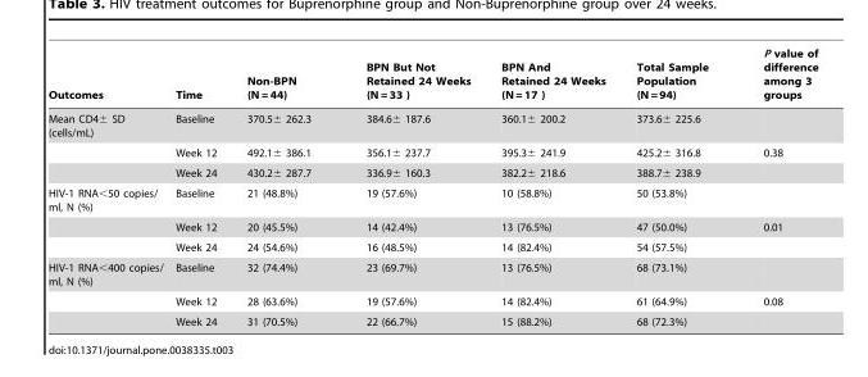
<table><thead><tr><td>Outcomes</td><td>Time</td><td>Non-BPN (N = 44)</td><td>BPN But Not Retained 24 Weeks (N = 33 )</td><td>BPN And Retained 24 Weeks (N = 17 )</td><td>Total Sample Population (N = 94)</td><td>P value of difference among 3 groups</td></tr></thead><tbody><tr><td rowspan="3">Mean CD4± SD (cells/mL)</td><td>Baseline</td><td>370.5± 262.3</td><td>384.6± 187.6</td><td>360.1± 200.2</td><td>373.6± 225.6</td><td></td></tr><tr><td>Week 12</td><td>492.1± 386.1</td><td>356.1± 237.7</td><td>395.3± 241.9</td><td>425.2± 316.8</td><td>0.38</td></tr><tr><td>Week 24</td><td>430.2± 287.7</td><td>336.9± 160.3</td><td>382.2± 218.6</td><td>388.7± 238.9</td><td></td></tr><tr><td rowspan="3">HIV-1 RNA&lt;50 copies/ ml, N (%)</td><td>Baseline</td><td>21 (48.8%)</td><td>19 (57.6%)</td><td>10 (58.8%)</td><td>50 (53.8%)</td><td></td></tr><tr><td>Week 12</td><td>20 (45.5%)</td><td>14 (42.4%)</td><td>13 (76.5%)</td><td>47 (50.0%)</td><td>0.01</td></tr><tr><td>Week 24</td><td>24 (54.6%)</td><td>16 (48.5%)</td><td>14 (82.4%)</td><td>54 (57.5%)</td><td></td></tr><tr><td rowspan="3">HIV-1 RNA&lt;400 copies/ ml, N (%)</td><td>Baseline</td><td>32 (74.4%)</td><td>23 (69.7%)</td><td>13 (76.5%)</td><td>68 (73.1%)</td><td></td></tr><tr><td>Week 12</td><td>28 (63.6%)</td><td>19 (57.6%)</td><td>14 (82.4%)</td><td>61 (64.9%)</td><td>0.08</td></tr><tr><td>Week 24</td><td>31 (70.5%)</td><td>22 (66.7%)</td><td>15 (88.2%)</td><td>68 (72.3%)</td><td></td></tr></tbody></table>